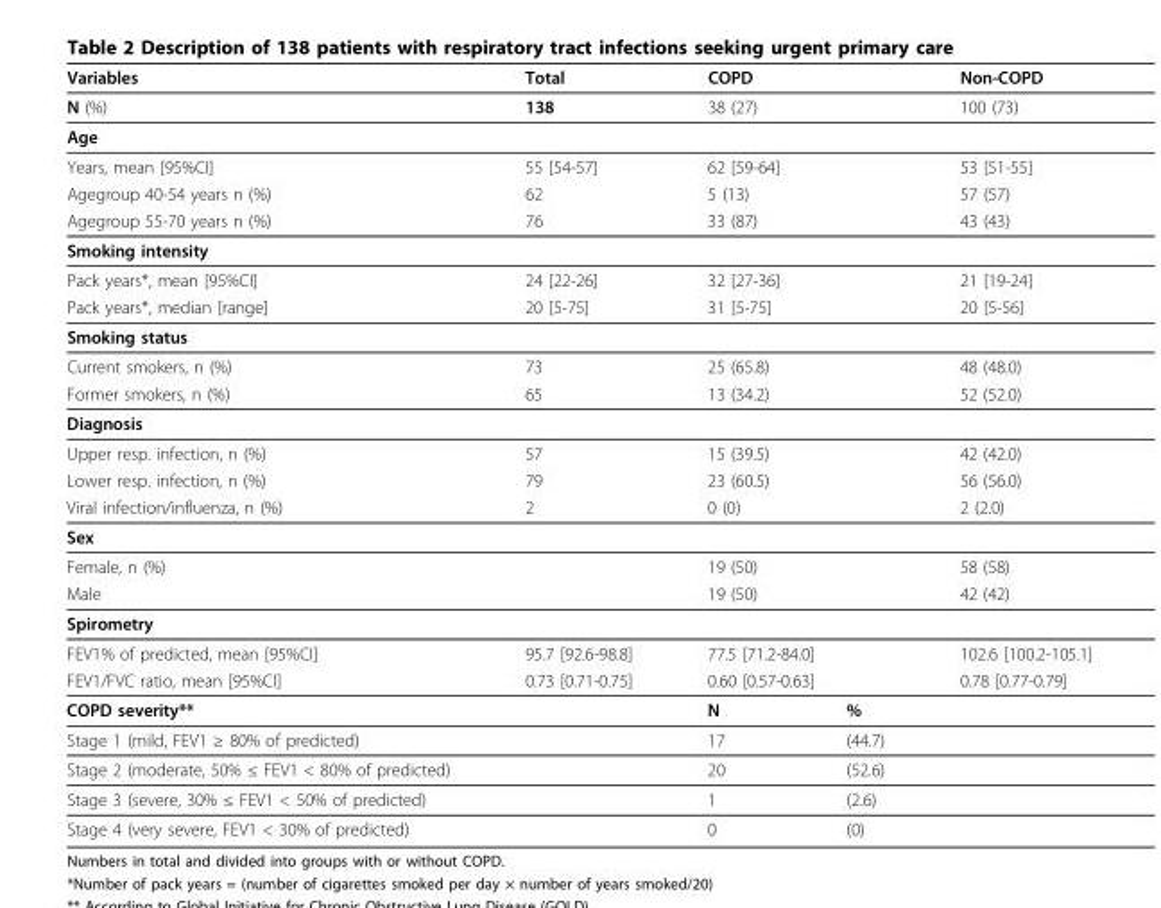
<table><thead><tr><td rowspan="3">Variables N (%) Age</td><td rowspan="3">Total 138</td><td rowspan="2" colspan="2">COPD 38 (27)</td><td rowspan="3">Non-COPD 100 (73)</td></tr><tr></tr><tr><td></td><td></td></tr></thead><tbody><tr><td>Years, mean [95%CI]</td><td>55 [54-57]</td><td colspan="2">62 [59-64]</td><td>53 [51-55]</td></tr><tr><td>Agegroup 40-54 years n (%)</td><td>62</td><td colspan="2">5 (13)</td><td>57 (57)</td></tr><tr><td>Agegroup 55-70 years n (%)</td><td>76</td><td colspan="2">33 (87)</td><td>43 (43)</td></tr><tr><td colspan="5">Smoking intensity</td></tr><tr><td>Pack years*, mean [95%CI]</td><td>24 [22-26]</td><td colspan="2">32 [27-36]</td><td>21 [19-24]</td></tr><tr><td>Pack years*, median [range]</td><td>20 [5-75]</td><td>31 [5-75]</td><td></td><td>20 [5-56]</td></tr><tr><td colspan="5">Smoking status</td></tr><tr><td>Current smokers, n (%)</td><td>73</td><td colspan="2">25 (65.8)</td><td>48 (48.0)</td></tr><tr><td>Former smokers, n (%)</td><td>65</td><td colspan="2">13 (34.2)</td><td>52 (52.0)</td></tr><tr><td colspan="5">Diagnosis</td></tr><tr><td>Upper resp. infection, n (%)</td><td>57</td><td colspan="2">15 (39.5)</td><td>42 (42.0)</td></tr><tr><td>Lower resp. infection, n (%)</td><td>79</td><td colspan="2">23 (60.5)</td><td>56 (56.0)</td></tr><tr><td>Viral infection/influenza, n (%)</td><td>2</td><td colspan="2">0 (0)</td><td>2 (2.0)</td></tr><tr><td colspan="5">Sex</td></tr><tr><td>Female, n (%)</td><td></td><td colspan="2">19 (50)</td><td>58 (58)</td></tr><tr><td>Male</td><td></td><td colspan="2">19 (50)</td><td>42 (42)</td></tr><tr><td colspan="5">Spirometry</td></tr><tr><td>FEV1% of predicted, mean [95%CI]</td><td>95.7 [92.6-98.8]</td><td colspan="2">77.5 [71.2-84.0]</td><td>102.6 [100.2-105.1]</td></tr><tr><td>FEV1/FVC ratio, mean [95%CI]</td><td>0.73 [0.71-0.75]</td><td colspan="2">0.60 [0.57-0.63]</td><td>0.78 [0.77-0.79]</td></tr><tr><td>COPD severity**</td><td></td><td>N</td><td>%</td><td></td></tr><tr><td>Stage 1 (mild, FEV1 ≥ 80% of predicted)</td><td></td><td>17</td><td>(44.7)</td><td></td></tr><tr><td>Stage 2 (moderate, 50% ≤ FEV1 &lt; 80% of predicted)</td><td></td><td>20</td><td>(52.6)</td><td></td></tr><tr><td>Stage 3 (severe, 30% ≤ FEV1 &lt; 50% of predicted)</td><td></td><td>1</td><td>(2.6)</td><td></td></tr><tr><td>Stage 4 (very severe, FEV1 &lt; 30% of predicted)</td><td></td><td>0</td><td>(0)</td><td></td></tr></tbody></table>